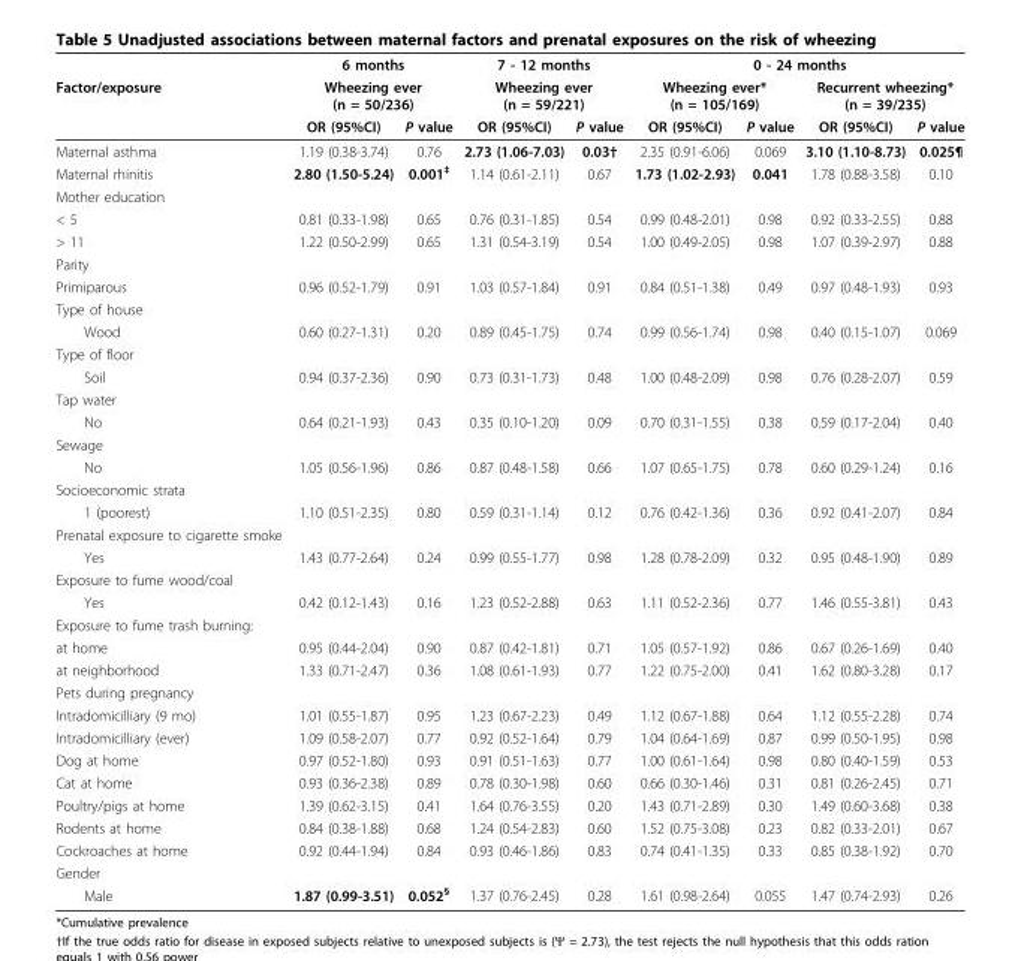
<table><thead><tr><td rowspan="3">Factor/exposure</td><td rowspan="2" colspan="2">6 months Wheezing ever (n = 50/236)</td><td rowspan="2" colspan="2">7 - 12 months Wheezing ever (n = 59/221)</td><td colspan="4">0 - 24 months</td></tr><tr><td colspan="2">Wheezing ever* (n = 105/169)</td><td colspan="2">Recurrent wheezing* (n = 39/235)</td></tr><tr><td>OR (95%CI)</td><td>P value</td><td>OR (95%CI)</td><td>P value</td><td>OR (95%CI)</td><td>P value</td><td>OR (95%CI)</td><td>P value</td></tr></thead><tbody><tr><td>Maternal asthma</td><td>1.19 (0.38-3.74)</td><td>0.76</td><td>2.73 (1.06-7.03)</td><td>0.03†</td><td>2.35 (0.91-6.06)</td><td>0.069</td><td>3.10 (1.10-8.73)</td><td>0.025¶</td></tr><tr><td>Maternal rhinitis</td><td>2.80 (1.50-5.24)</td><td>0.001<sup>‡</sup></td><td>1.14 (0.61-2.11)</td><td>0.67</td><td>1.73 (1.02-2.93)</td><td>0.041</td><td>1.78 (0.88-3.58)</td><td>0.10</td></tr><tr><td colspan="9">Mother education</td></tr><tr><td>&lt; 5</td><td>0.81 (0.33-1.98)</td><td>0.65</td><td>0.76 (0.31-1.85)</td><td>0.54</td><td>0.99 (0.48-2.01)</td><td>0.98</td><td>0.92 (0.33-2.55)</td><td>0.88</td></tr><tr><td>&gt; 11</td><td>1.22 (0.50-2.99)</td><td>0.65</td><td>1.31 (0.54-3.19)</td><td>0.54</td><td>1.00 (0.49-2.05)</td><td>0.98</td><td>1.07 (0.39-2.97)</td><td>0.88</td></tr><tr><td colspan="9">Parity</td></tr><tr><td>Primiparous</td><td>0.96 (0.52-1.79)</td><td>0.91</td><td>1.03 (0.57-1.84)</td><td>0.91</td><td>0.84 (0.51-1.38)</td><td>0.49</td><td>0.97 (0.48-1.93)</td><td>0.93</td></tr><tr><td colspan="9">Type of house</td></tr><tr><td>Wood</td><td>0.60 (0.27-1.31)</td><td>0.20</td><td>0.89 (0.45-1.75)</td><td>0.74</td><td>0.99 (0.56-1.74)</td><td>0.98</td><td>0.40 (0.15-1.07)</td><td>0.069</td></tr><tr><td colspan="9">Type of floor</td></tr><tr><td>Soil</td><td>0.94 (0.37-2.36)</td><td>0.90</td><td>0.73 (0.31-1.73)</td><td>0.48</td><td>1.00 (0.48-2.09)</td><td>0.98</td><td>0.76 (0.28-2.07)</td><td>0.59</td></tr><tr><td colspan="9">Tap water</td></tr><tr><td>No</td><td>0.64 (0.21-1.93)</td><td>0.43</td><td>0.35 (0.10-1.20)</td><td>0.09</td><td>0.70 (0.31-1.55)</td><td>0.38</td><td>0.59 (0.17-2.04)</td><td>0.40</td></tr><tr><td colspan="9">Sewage</td></tr><tr><td>No</td><td>1.05 (0.56-1.96)</td><td>0.86</td><td>0.87 (0.48-1.58)</td><td>0.66</td><td>1.07 (0.65-1.75)</td><td>0.78</td><td>0.60 (0.29-1.24)</td><td>0.16</td></tr><tr><td colspan="9">Socioeconomic strata</td></tr><tr><td>1 (poorest)</td><td>1.10 (0.51-2.35)</td><td>0.80</td><td>0.59 (0.31-1.14)</td><td>0.12</td><td>0.76 (0.42-1.36)</td><td>0.36</td><td>0.92 (0.41-2.07)</td><td>0.84</td></tr><tr><td colspan="9">Prenatal exposure to cigarette smoke</td></tr><tr><td>Yes</td><td>1.43 (0.77-2.64)</td><td>0.24</td><td>0.99 (0.55-1.77)</td><td>0.98</td><td>1.28 (0.78-2.09)</td><td>0.32</td><td>0.95 (0.48-1.90)</td><td>0.89</td></tr><tr><td colspan="9">Exposure to fume wood/coal</td></tr><tr><td>Yes</td><td>0.42 (0.12-1.43)</td><td>0.16</td><td>1.23 (0.52-2.88)</td><td>0.63</td><td>1.11 (0.52-2.36)</td><td>0.77</td><td>1.46 (0.55-3.81)</td><td>0.43</td></tr><tr><td colspan="9">Exposure to fume trash burning:</td></tr><tr><td>at home</td><td>0.95 (0.44-2.04)</td><td>0.90</td><td>0.87 (0.42-1.81)</td><td>0.71</td><td>1.05 (0.57-1.92)</td><td>0.86</td><td>0.67 (0.26-1.69)</td><td>0.40</td></tr><tr><td>at neighborhood</td><td>1.33 (0.71-2.47)</td><td>0.36</td><td>1.08 (0.61-1.93)</td><td>0.77</td><td>1.22 (0.75-2.00)</td><td>0.41</td><td>1.62 (0.80-3.28)</td><td>0.17</td></tr><tr><td colspan="9">Pets during pregnancy</td></tr><tr><td>Intradomicilliary (9 mo)</td><td>1.01 (0.55-1.87)</td><td>0.95</td><td>1.23 (0.67-2.23)</td><td>0.49</td><td>1.12 (0.67-1.88)</td><td>0.64</td><td>1.12 (0.55-2.28)</td><td>0.74</td></tr><tr><td>Intradomicilliary (ever)</td><td>1.09 (0.58-2.07)</td><td>0.77</td><td>0.92 (0.52-1.64)</td><td>0.79</td><td>1.04 (0.64-1.69)</td><td>0.87</td><td>0.99 (0.50-1.95)</td><td>0.98</td></tr><tr><td>Dog at home</td><td>0.97 (0.52-1.80)</td><td>0.93</td><td>0.91 (0.51-1.63)</td><td>0.77</td><td>1.00 (0.61-1.64)</td><td>0.98</td><td>0.80 (0.40-1.59)</td><td>0.53</td></tr><tr><td>Cat at home</td><td>0.93 (0.36-2.38)</td><td>0.89</td><td>0.78 (0.30-1.98)</td><td>0.60</td><td>0.66 (0.30-1.46)</td><td>0.31</td><td>0.81 (0.26-2.45)</td><td>0.71</td></tr><tr><td>Poultry/pigs at home</td><td>1.39 (0.62-3.15)</td><td>0.41</td><td>1.64 (0.76-3.55)</td><td>0.20</td><td>1.43 (0.71-2.89)</td><td>0.30</td><td>1.49 (0.60-3.68)</td><td>0.38</td></tr><tr><td>Rodents at home</td><td>0.84 (0.38-1.88)</td><td>0.68</td><td>1.24 (0.54-2.83)</td><td>0.60</td><td>1.52 (0.75-3.08)</td><td>0.23</td><td>0.82 (0.33-2.01)</td><td>0.67</td></tr><tr><td>Cockroaches at home</td><td>0.92 (0.44-1.94)</td><td>0.84</td><td>0.93 (0.46-1.86)</td><td>0.83</td><td>0.74 (0.41-1.35)</td><td>0.33</td><td>0.85 (0.38-1.92)</td><td>0.70</td></tr><tr><td colspan="9">Gender</td></tr><tr><td>Male</td><td>1.87 (0.99-3.51)</td><td>0.052<sup>§</sup></td><td>1.37 (0.76-2.45)</td><td>0.28</td><td>1.61 (0.98-2.64)</td><td>0.055</td><td>1.47 (0.74-2.93)</td><td>0.26</td></tr></tbody></table>